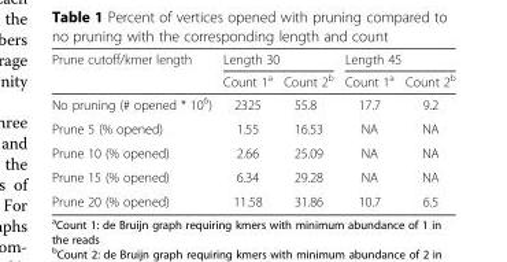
<table><thead><tr><td rowspan="2">Prune cutoff/kmer length</td><td colspan="2">Length 30</td><td colspan="2">Length 45</td></tr><tr><td>Count 1<sup>a</sup></td><td>Count 2<sup>b</sup></td><td>Count 1<sup>a</sup></td><td>Count 2<sup>b</sup></td></tr></thead><tbody><tr><td>No pruning (# opened * 10<sup>6</sup>)</td><td>2325</td><td>55.8</td><td>17.7</td><td>9.2</td></tr><tr><td>Prune 5 (% opened)</td><td>1.55</td><td>16.53</td><td>NA</td><td>NA</td></tr><tr><td>Prune 10 (% opened)</td><td>2.66</td><td>25.09</td><td>NA</td><td>NA</td></tr><tr><td>Prune 15 (% opened)</td><td>6.34</td><td>29.28</td><td>NA</td><td>NA</td></tr><tr><td>Prune 20 (% opened)</td><td>11.58</td><td>31.86</td><td>10.7</td><td>6.5</td></tr></tbody></table>